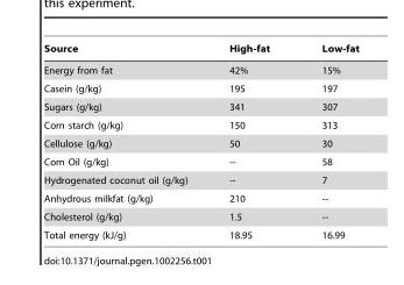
<table><thead><tr><td>Source</td><td>High-fat</td><td>Low-fat</td></tr></thead><tbody><tr><td>Energy from fat</td><td>42%</td><td>15%</td></tr><tr><td>Casein (g/kg)</td><td>195</td><td>197</td></tr><tr><td>Sugars (g/kg)</td><td>341</td><td>307</td></tr><tr><td>Corn starch (g/kg)</td><td>150</td><td>313</td></tr><tr><td>Cellulose (g/kg)</td><td>50</td><td>30</td></tr><tr><td>Corn Oil (g/kg)</td><td>--</td><td>58</td></tr><tr><td>Hydrogenated coconut oil (g/kg)</td><td>--</td><td>7</td></tr><tr><td>Anhydrous milkfat (g/kg)</td><td>210</td><td>--</td></tr><tr><td>Cholesterol (g/kg)</td><td>1.5</td><td>--</td></tr><tr><td>Total energy (kJ/g)</td><td>18.95</td><td>16.99</td></tr></tbody></table>